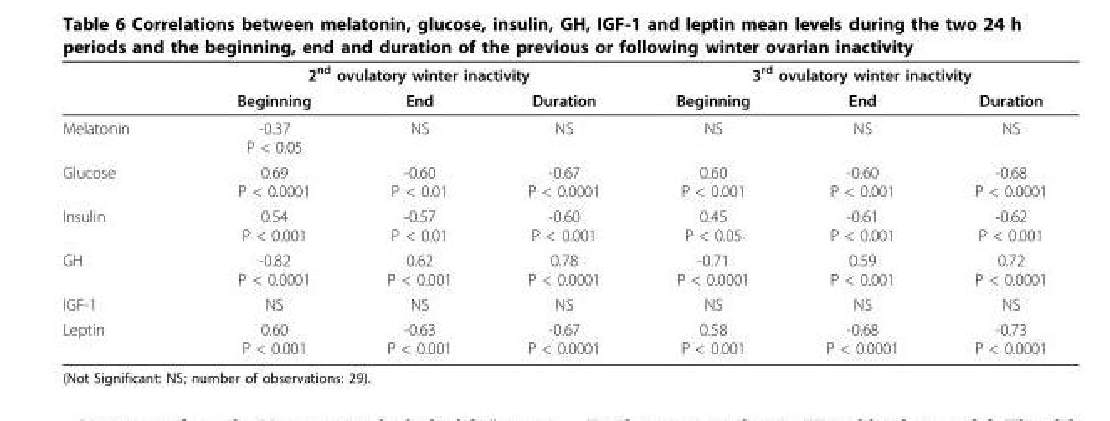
<table><thead><tr><td rowspan="2"></td><td colspan="3">2<sup>nd</sup> ovulatory winter inactivity</td><td colspan="3">3<sup>rd</sup> ovulatory winter inactivity</td></tr><tr><td>Beginning</td><td>End</td><td>Duration</td><td>Beginning</td><td>End</td><td>Duration</td></tr></thead><tbody><tr><td>Melatonin</td><td>-0.37 P &lt; 0.05</td><td>NS</td><td>NS</td><td>NS</td><td>NS</td><td>NS</td></tr><tr><td>Glucose</td><td>0.69 P &lt; 0.0001</td><td>-0.60 P &lt; 0.01</td><td>-0.67 P &lt; 0.0001</td><td>0.60 P &lt; 0.001</td><td>-0.60 P &lt; 0.001</td><td>-0.68 P &lt; 0.0001</td></tr><tr><td>Insulin</td><td>0.54 P &lt; 0.001</td><td>-0.57 P &lt; 0.01</td><td>-0.60 P &lt; 0.001</td><td>0.45 P &lt; 0.05</td><td>-0.61 P &lt; 0.001</td><td>-0.62 P &lt; 0.001</td></tr><tr><td>GH</td><td>-0.82 P &lt; 0.0001</td><td>0.62 P &lt; 0.001</td><td>0.78 P &lt; 0.0001</td><td>-0.71 P &lt; 0.0001</td><td>0.59 P &lt; 0.001</td><td>0.72 P &lt; 0.0001</td></tr><tr><td>IGF-1</td><td>NS</td><td>NS</td><td>NS</td><td>NS</td><td>NS</td><td>NS</td></tr><tr><td>Leptin</td><td>0.60 P &lt; 0.001</td><td>-0.63 P &lt; 0.001</td><td>-0.67 P &lt; 0.0001</td><td>0.58 P &lt; 0.001</td><td>-0.68 P &lt; 0.0001</td><td>-0.73 P &lt; 0.0001</td></tr></tbody></table>